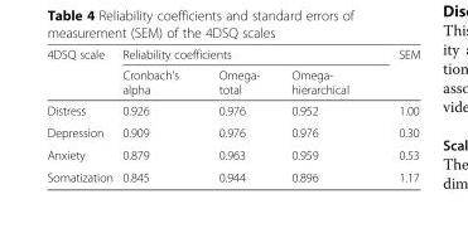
<table><thead><tr><td rowspan="2">4DSQ scale</td><td colspan="3">Reliability coefficients</td><td rowspan="2">SEM</td></tr><tr><td>Cronbach’s alpha</td><td>Omega- total</td><td>Omega- hierarchical</td></tr></thead><tbody><tr><td>Distress</td><td>0.926</td><td>0.976</td><td>0.952</td><td>1.00</td></tr><tr><td>Depression</td><td>0.909</td><td>0.976</td><td>0.976</td><td>0.30</td></tr><tr><td>Anxiety</td><td>0.879</td><td>0.963</td><td>0.959</td><td>0.53</td></tr><tr><td>Somatization</td><td>0.845</td><td>0.944</td><td>0.896</td><td>1.17</td></tr></tbody></table>